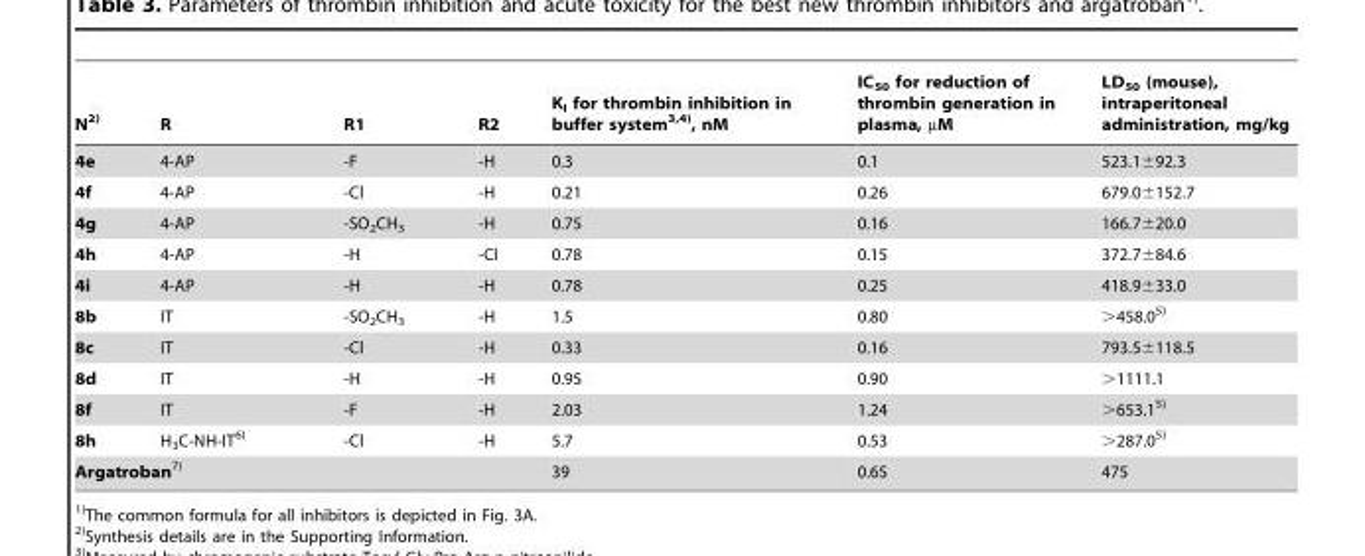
<table><thead><tr><td>N2)</td><td>R</td><td>R1</td><td>R2</td><td>K<sub>I</sub> for thrombin inhibition in buffer system<sup>3,</sup>4), nM</td><td>IC<sub>50</sub> for reduction of thrombin generation in plasma, µM</td><td>LD<sub>50</sub> (mouse), intraperitoneal administration, mg/kg</td></tr></thead><tbody><tr><td>4e</td><td>4-AP</td><td>-F</td><td>-H</td><td>0.3</td><td>0.1</td><td>523.1±92.3</td></tr><tr><td>4f</td><td>4-AP</td><td>-Cl</td><td>-H</td><td>0.21</td><td>0.26</td><td>679.0±152.7</td></tr><tr><td>4g</td><td>4-AP</td><td>-SO<sub>2</sub>CH<sub>3</sub></td><td>-H</td><td>0.75</td><td>0.16</td><td>166.7±20.0</td></tr><tr><td>4h</td><td>4-AP</td><td>-H</td><td>-Cl</td><td>0.78</td><td>0.15</td><td>372.7±84.6</td></tr><tr><td>4i</td><td>4-AP</td><td>-H</td><td>-H</td><td>0.78</td><td>0.25</td><td>418.9±33.0</td></tr><tr><td>8b</td><td>IT</td><td>-SO<sub>2</sub>CH<sub>3</sub></td><td>-H</td><td>1.5</td><td>0.80</td><td>&gt;458.05)</td></tr><tr><td>8c</td><td>IT</td><td>-Cl</td><td>-H</td><td>0.33</td><td>0.16</td><td>793.5±118.5</td></tr><tr><td>8d</td><td>IT</td><td>-H</td><td>-H</td><td>0.95</td><td>0.90</td><td>&gt;1111.1</td></tr><tr><td>8f</td><td>IT</td><td>-F</td><td>-H</td><td>2.03</td><td>1.24</td><td>&gt;653.15)</td></tr><tr><td>8h</td><td>H<sub>3</sub>C-NH-IT6)</td><td>-Cl</td><td>-H</td><td>5.7</td><td>0.53</td><td>&gt;287.05)</td></tr><tr><td colspan="4">Argatroban7)</td><td>39</td><td>0.65</td><td>475</td></tr></tbody></table>